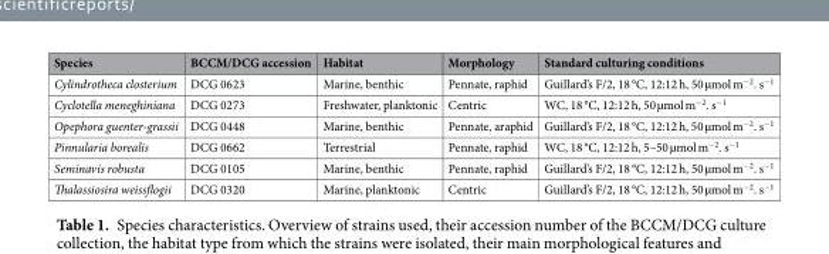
<table><thead><tr><td>Species</td><td>BCCM/DCG accession</td><td>Habitat</td><td>Morphology</td><td>Standard culturing conditions</td></tr></thead><tbody><tr><td>Cylindrotheca closterium</td><td>DCG 0623</td><td>Marine, benthic</td><td>Pennate, raphid</td><td>Guillard’s F/2, 18 °C, 12:12 h, 50 µmol m<sup>−2</sup>. s<sup>−1</sup></td></tr><tr><td>Cyclotella meneghiniana</td><td>DCG 0273</td><td>Freshwater, planktonic</td><td>Centric</td><td>WC, 18 °C, 12:12 h, 50 µmol m<sup>−2</sup>. s<sup>−1</sup></td></tr><tr><td>Opephora guenter-grassii</td><td>DCG 0448</td><td>Marine, benthic</td><td>Pennate, araphid</td><td>Guillard’s F/2, 18 °C, 12:12 h, 50 µmol m<sup>−2</sup>. s<sup>−1</sup></td></tr><tr><td>Pinnularia borealis</td><td>DCG 0662</td><td>Terrestrial</td><td>Pennate, raphid</td><td>WC, 18 °C, 12:12 h, 5–50 µmol m<sup>−2</sup>. s<sup>−1</sup></td></tr><tr><td>Seminavis robusta</td><td>DCG 0105</td><td>Marine, benthic</td><td>Pennate, raphid</td><td>Guillard’s F/2, 18 °C, 12:12 h, 50 µmol m<sup>−2</sup>. s<sup>−1</sup></td></tr><tr><td>Thalassiosira weissflogii</td><td>DCG 0320</td><td>Marine, planktonic</td><td>Centric</td><td>Guillard’s F/2, 18 °C, 12:12 h, 50 µmol m<sup>−2</sup>. s<sup>−1</sup></td></tr></tbody></table>